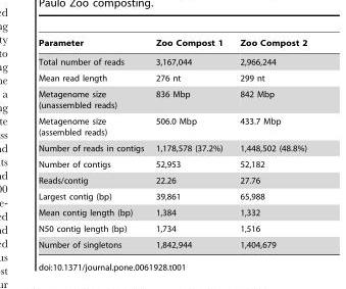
<table><thead><tr><td>Parameter</td><td>Zoo Compost 1</td><td>Zoo Compost 2</td></tr></thead><tbody><tr><td>Total number of reads</td><td>3,167,044</td><td>2,966,244</td></tr><tr><td>Mean read length</td><td>276 nt</td><td>299 nt</td></tr><tr><td>Metagenome size (unassembled reads)</td><td>836 Mbp</td><td>842 Mbp</td></tr><tr><td>Metagenome size (assembled reads)</td><td>506.0 Mbp</td><td>433.7 Mbp</td></tr><tr><td>Number of reads in contigs</td><td>1,178,578 (37.2%)</td><td>1,448,502 (48.8%)</td></tr><tr><td>Number of contigs</td><td>52,953</td><td>52,182</td></tr><tr><td>Reads/contig</td><td>22.26</td><td>27.76</td></tr><tr><td>Largest contig (bp)</td><td>39,861</td><td>65,988</td></tr><tr><td>Mean contig length (bp)</td><td>1,384</td><td>1,332</td></tr><tr><td>N50 contig length (bp)</td><td>1,734</td><td>1,516</td></tr><tr><td>Number of singletons</td><td>1,842,944</td><td>1,404,679</td></tr></tbody></table>